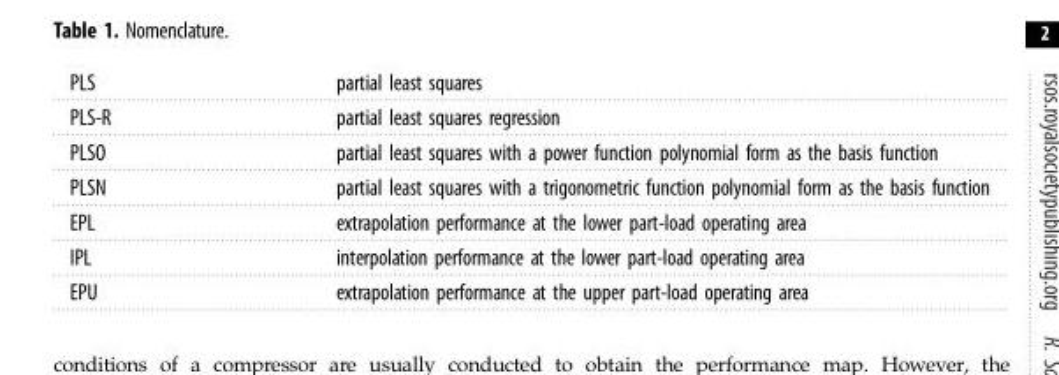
<table><tbody><tr><td>PLS</td><td>partial least squares</td></tr><tr><td>PLS-R</td><td>partial least squares regression</td></tr><tr><td>PLSO</td><td>partial least squares with a power function polynomial form as the basis function</td></tr><tr><td>PLSN</td><td>partial least squares with a trigonometric function polynomial form as the basis function</td></tr><tr><td>EPL</td><td>extrapolation performance at the lower part-load operating area</td></tr><tr><td>IPL</td><td>interpolation performance at the lower part-load operating area</td></tr><tr><td>EPU</td><td>extrapolation performance at the upper part-load operating area</td></tr></tbody></table>